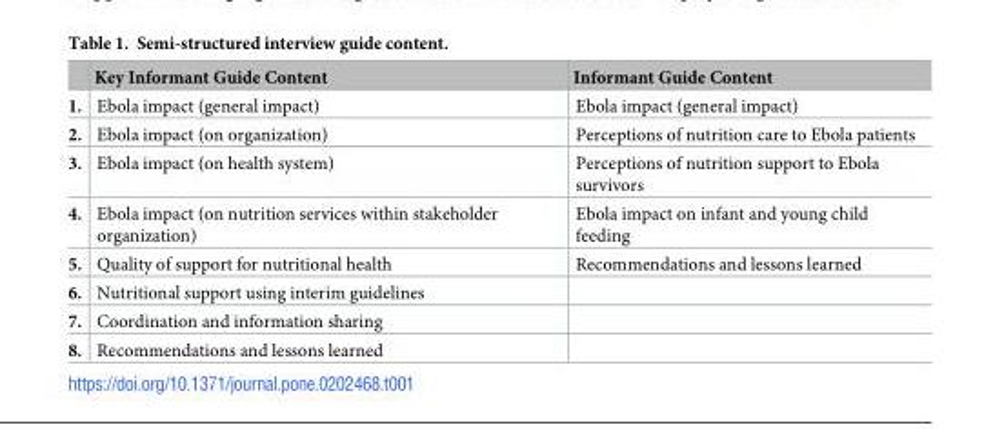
<table><thead><tr><td></td><td>Key Informant Guide Content</td><td>Informant Guide Content</td></tr></thead><tbody><tr><td>1.</td><td>Ebola impact (general impact)</td><td>Ebola impact (general impact)</td></tr><tr><td>2.</td><td>Ebola impact (on organization)</td><td>Perceptions of nutrition care to Ebola patients</td></tr><tr><td>3.</td><td>Ebola impact (on health system)</td><td>Perceptions of nutrition support to Ebola survivors</td></tr><tr><td>4.</td><td>Ebola impact (on nutrition services within stakeholder organization)</td><td>Ebola impact on infant and young child feeding</td></tr><tr><td>5.</td><td>Quality of support for nutritional health</td><td>Recommendations and lessons learned</td></tr><tr><td>6.</td><td>Nutritional support using interim guidelines</td><td></td></tr><tr><td>7.</td><td>Coordination and information sharing</td><td></td></tr><tr><td>8.</td><td>Recommendations and lessons learned</td><td></td></tr></tbody></table>